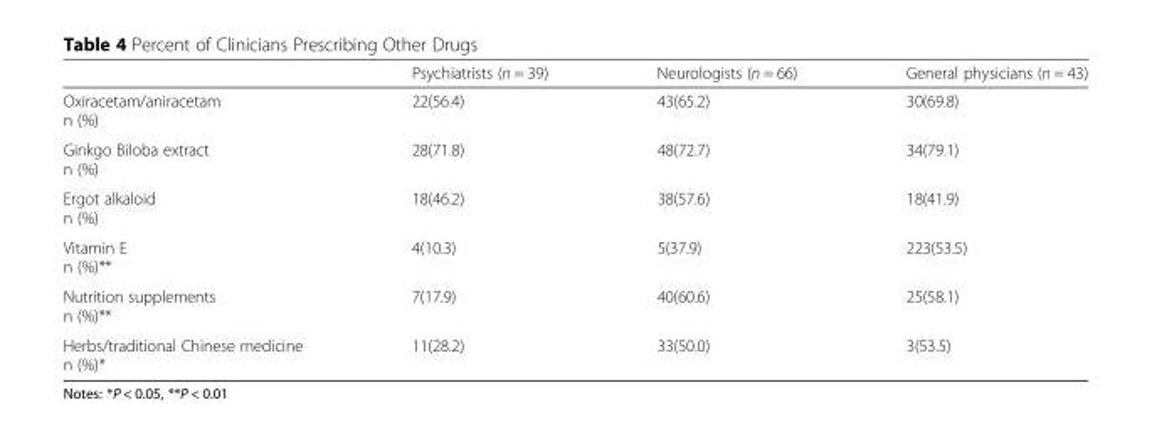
<table><thead><tr><td></td><td>Psychiatrists (n = 39)</td><td>Neurologists (n = 66)</td><td>General physicians (n = 43)</td></tr></thead><tbody><tr><td>Oxiracetam/aniracetam n (%)</td><td>22(56.4)</td><td>43(65.2)</td><td>30(69.8)</td></tr><tr><td>Ginkgo Biloba extract n (%)</td><td>28(71.8)</td><td>48(72.7)</td><td>34(79.1)</td></tr><tr><td>Ergot alkaloid n (%)</td><td>18(46.2)</td><td>38(57.6)</td><td>18(41.9)</td></tr><tr><td>Vitamin E n (%)**</td><td>4(10.3)</td><td>5(37.9)</td><td>223(53.5)</td></tr><tr><td>Nutrition supplements n (%)**</td><td>7(17.9)</td><td>40(60.6)</td><td>25(58.1)</td></tr><tr><td>Herbs/traditional Chinese medicine n (%)*</td><td>11(28.2)</td><td>33(50.0)</td><td>3(53.5)</td></tr></tbody></table>